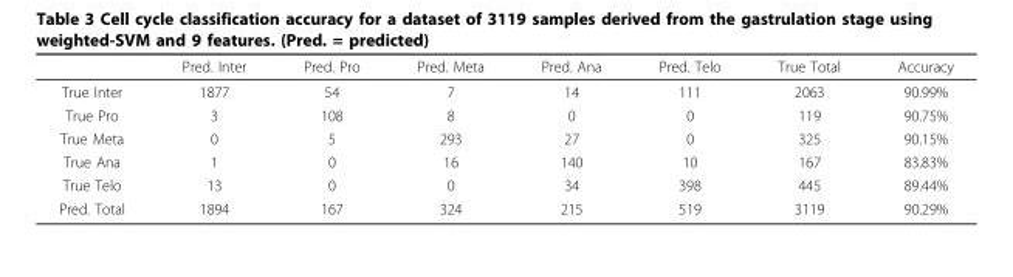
<table><thead><tr><td></td><td>Pred. Inter</td><td>Pred. Pro</td><td>Pred. Meta</td><td>Pred. Ana</td><td>Pred. Telo</td><td>True Total</td><td>Accuracy</td></tr></thead><tbody><tr><td>True Inter</td><td>1877</td><td>54</td><td>7</td><td>14</td><td>111</td><td>2063</td><td>90.99%</td></tr><tr><td>True Pro</td><td>3</td><td>108</td><td>8</td><td>0</td><td>0</td><td>119</td><td>90.75%</td></tr><tr><td>True Meta</td><td>0</td><td>5</td><td>293</td><td>27</td><td>0</td><td>325</td><td>90.15%</td></tr><tr><td>True Ana</td><td>1</td><td>0</td><td>16</td><td>140</td><td>10</td><td>167</td><td>83.83%</td></tr><tr><td>True Telo</td><td>13</td><td>0</td><td>0</td><td>34</td><td>398</td><td>445</td><td>89.44%</td></tr><tr><td>Pred. Total</td><td>1894</td><td>167</td><td>324</td><td>215</td><td>519</td><td>3119</td><td>90.29%</td></tr></tbody></table>